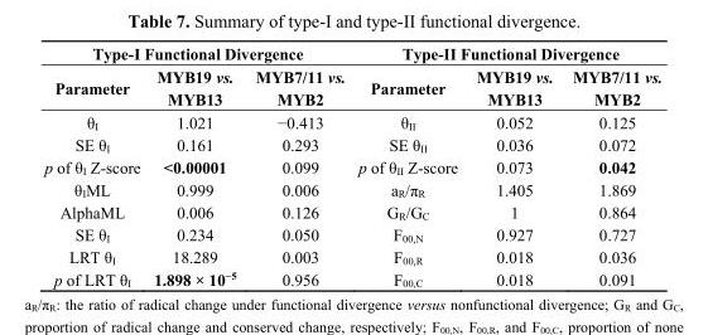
<table><thead><tr><td colspan="3">Type-I Functional Divergence</td><td colspan="3">Type-II Functional Divergence</td></tr><tr><td>Parameter</td><td>MYB19 vs. MYB13</td><td>MYB7/11 vs. MYB2</td><td>Parameter</td><td>MYB19 vs. MYB13</td><td>MYB7/11 vs. MYB2</td></tr></thead><tbody><tr><td>θ<sub>I</sub></td><td>1.021</td><td>−0.413</td><td>θ<sub>II</sub></td><td>0.052</td><td>0.125</td></tr><tr><td>SE θ<sub>I</sub></td><td>0.161</td><td>0.293</td><td>SE θ<sub>II</sub></td><td>0.036</td><td>0.072</td></tr><tr><td>p of θ<sub>I</sub> Z-score</td><td>&lt;0.00001</td><td>0.099</td><td>p of θ<sub>II</sub> Z-score</td><td>0.073</td><td>0.042</td></tr><tr><td>θ<sub>I</sub>ML</td><td>0.999</td><td>0.006</td><td>a<sub>R</sub>/π<sub>R</sub></td><td>1.405</td><td>1.869</td></tr><tr><td>AlphaML</td><td>0.006</td><td>0.126</td><td>G<sub>R</sub>/G<sub>C</sub></td><td>1</td><td>0.864</td></tr><tr><td>SE θ<sub>I</sub></td><td>0.234</td><td>0.050</td><td>F<sub>00,N</sub></td><td>0.927</td><td>0.727</td></tr><tr><td>LRT θ<sub>I</sub></td><td>18.289</td><td>0.003</td><td>F<sub>00,R</sub></td><td>0.018</td><td>0.036</td></tr><tr><td>p of LRT θ<sub>I</sub></td><td>1.898 × 10<sup>−5</sup></td><td>0.956</td><td>F<sub>00,C</sub></td><td>0.018</td><td>0.091</td></tr></tbody></table>